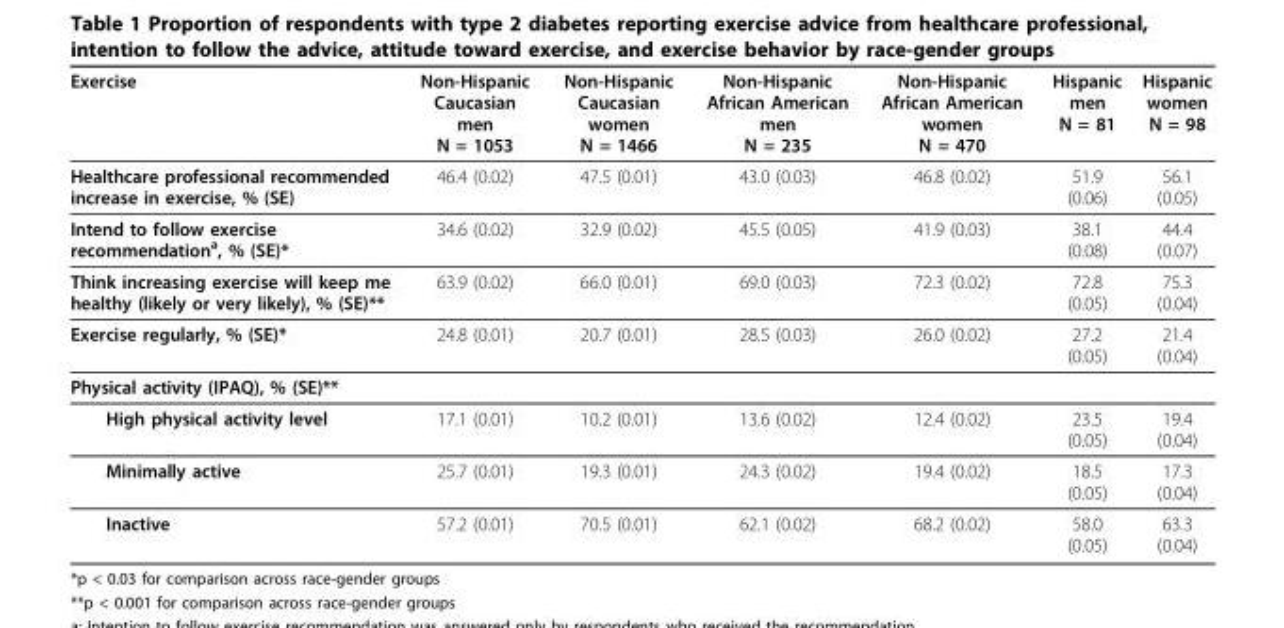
<table><thead><tr><td>Exercise</td><td>Non-Hispanic Caucasian men N = 1053</td><td>Non-Hispanic Caucasian women N = 1466</td><td>Non-Hispanic African American men N = 235</td><td>Non-Hispanic African American women N = 470</td><td>Hispanic men N = 81</td><td>Hispanic women N = 98</td></tr></thead><tbody><tr><td>Healthcare professional recommended increase in exercise, % (SE)</td><td>46.4 (0.02)</td><td>47.5 (0.01)</td><td>43.0 (0.03)</td><td>46.8 (0.02)</td><td>51.9 (0.06)</td><td>56.1 (0.05)</td></tr><tr><td>Intend to follow exercise recommendation<sup>a</sup>, % (SE)*</td><td>34.6 (0.02)</td><td>32.9 (0.02)</td><td>45.5 (0.05)</td><td>41.9 (0.03)</td><td>38.1 (0.08)</td><td>44.4 (0.07)</td></tr><tr><td>Think increasing exercise will keep me healthy (likely or very likely), % (SE)**</td><td>63.9 (0.02)</td><td>66.0 (0.01)</td><td>69.0 (0.03)</td><td>72.3 (0.02)</td><td>72.8 (0.05)</td><td>75.3 (0.04)</td></tr><tr><td>Exercise regularly, % (SE)*</td><td>24.8 (0.01)</td><td>20.7 (0.01)</td><td>28.5 (0.03)</td><td>26.0 (0.02)</td><td>27.2 (0.05)</td><td>21.4 (0.04)</td></tr><tr><td colspan="7">Physical activity (IPAQ), % (SE)**</td></tr><tr><td>High physical activity level</td><td>17.1 (0.01)</td><td>10.2 (0.01)</td><td>13.6 (0.02)</td><td>12.4 (0.02)</td><td>23.5 (0.05)</td><td>19.4 (0.04)</td></tr><tr><td>Minimally active</td><td>25.7 (0.01)</td><td>19.3 (0.01)</td><td>24.3 (0.02)</td><td>19.4 (0.02)</td><td>18.5 (0.05)</td><td>17.3 (0.04)</td></tr><tr><td>Inactive</td><td>57.2 (0.01)</td><td>70.5 (0.01)</td><td>62.1 (0.02)</td><td>68.2 (0.02)</td><td>58.0 (0.05)</td><td>63.3 (0.04)</td></tr></tbody></table>